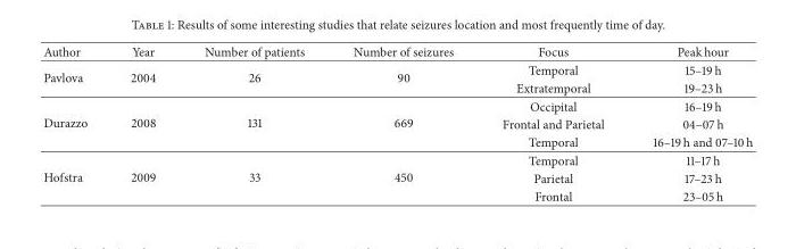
<table><thead><tr><td>Author</td><td>Year</td><td>Number of patients</td><td>Number of seizures</td><td>Focus</td><td>Peak hour</td></tr></thead><tbody><tr><td rowspan="2">Pavlova</td><td rowspan="2">2004</td><td rowspan="2">26</td><td rowspan="2">90</td><td>Temporal</td><td>15–19 h</td></tr><tr><td>Extratemporal</td><td>19–23 h</td></tr><tr><td rowspan="3">Durazzo</td><td rowspan="3">2008</td><td rowspan="3">131</td><td rowspan="3">669</td><td>Occipital</td><td>16–19 h</td></tr><tr><td>Frontal and Parietal</td><td>04–07 h</td></tr><tr><td>Temporal</td><td>16–19 h and 07–10 h</td></tr><tr><td rowspan="3">Hofstra</td><td rowspan="3">2009</td><td rowspan="3">33</td><td rowspan="3">450</td><td>Temporal</td><td>11–17 h</td></tr><tr><td>Parietal</td><td>17–23 h</td></tr><tr><td>Frontal</td><td>23–05 h</td></tr></tbody></table>